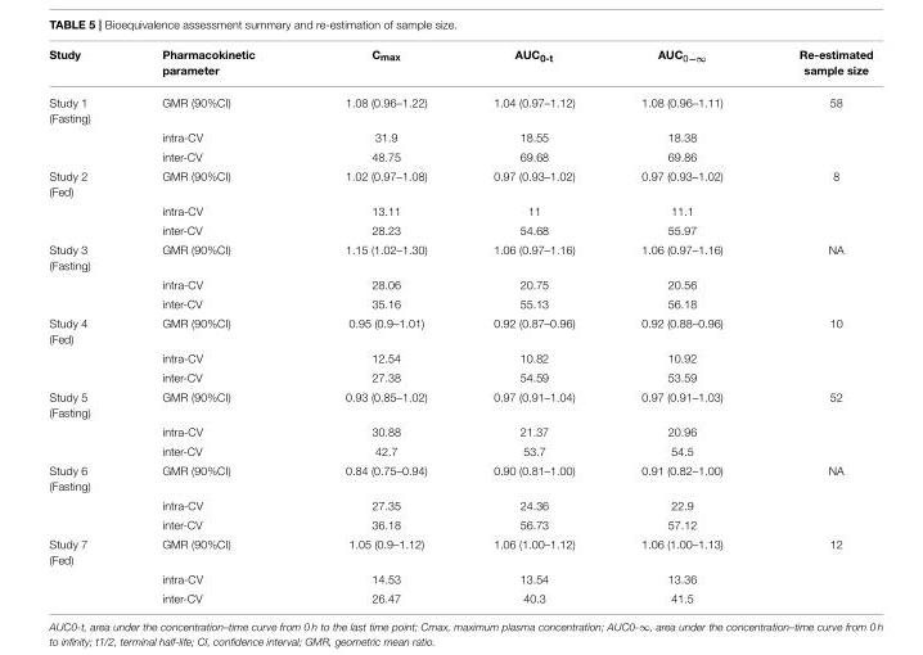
<table><thead><tr><td>Study</td><td>Pharmacokinetic parameter</td><td>C<sub>max</sub></td><td>AUC<sub>0-t</sub></td><td>AUC<sub>0−∞</sub></td><td>Re-estimated sample size</td></tr></thead><tbody><tr><td rowspan="3">Study 1 (Fasting)</td><td>GMR (90%CI)</td><td>1.08 (0.96–1.22)</td><td>1.04 (0.97–1.12)</td><td>1.08 (0.96–1.11)</td><td>58</td></tr><tr><td>intra-CV</td><td>31.9</td><td>18.55</td><td>18.38</td><td></td></tr><tr><td>inter-CV</td><td>48.75</td><td>69.68</td><td>69.86</td><td></td></tr><tr><td rowspan="3">Study 2 (Fed)</td><td>GMR (90%CI)</td><td>1.02 (0.97–1.08)</td><td>0.97 (0.93–1.02)</td><td>0.97 (0.93–1.02)</td><td>8</td></tr><tr><td>intra-CV</td><td>13.11</td><td>11</td><td>11.1</td><td></td></tr><tr><td>inter-CV</td><td>28.23</td><td>54.68</td><td>55.97</td><td></td></tr><tr><td rowspan="3">Study 3 (Fasting)</td><td>GMR (90%CI)</td><td>1.15 (1.02–1.30)</td><td>1.06 (0.97–1.16)</td><td>1.06 (0.97–1.16)</td><td>NA</td></tr><tr><td>intra-CV</td><td>28.06</td><td>20.75</td><td>20.56</td><td></td></tr><tr><td>inter-CV</td><td>35.16</td><td>55.13</td><td>56.18</td><td></td></tr><tr><td rowspan="3">Study 4 (Fed)</td><td>GMR (90%CI)</td><td>0.95 (0.9–1.01)</td><td>0.92 (0.87–0.96)</td><td>0.92 (0.88–0.96)</td><td>10</td></tr><tr><td>intra-CV</td><td>12.54</td><td>10.82</td><td>10.92</td><td></td></tr><tr><td>inter-CV</td><td>27.38</td><td>54.59</td><td>53.59</td><td></td></tr><tr><td rowspan="3">Study 5 (Fasting)</td><td>GMR (90%CI)</td><td>0.93 (0.85–1.02)</td><td>0.97 (0.91–1.04)</td><td>0.97 (0.91–1.03)</td><td>52</td></tr><tr><td>intra-CV</td><td>30.88</td><td>21.37</td><td>20.96</td><td></td></tr><tr><td>inter-CV</td><td>42.7</td><td>53.7</td><td>54.5</td><td></td></tr><tr><td rowspan="3">Study 6 (Fasting)</td><td>GMR (90%CI)</td><td>0.84 (0.75–0.94)</td><td>0.90 (0.81–1.00)</td><td>0.91 (0.82–1.00)</td><td>NA</td></tr><tr><td>intra-CV</td><td>27.35</td><td>24.36</td><td>22.9</td><td></td></tr><tr><td>inter-CV</td><td>36.18</td><td>56.73</td><td>57.12</td><td></td></tr><tr><td rowspan="3">Study 7 (Fed)</td><td>GMR (90%CI)</td><td>1.05 (0.9–1.12)</td><td>1.06 (1.00–1.12)</td><td>1.06 (1.00–1.13)</td><td>12</td></tr><tr><td>intra-CV</td><td>14.53</td><td>13.54</td><td>13.36</td><td></td></tr><tr><td>inter-CV</td><td>26.47</td><td>40.3</td><td>41.5</td><td></td></tr></tbody></table>